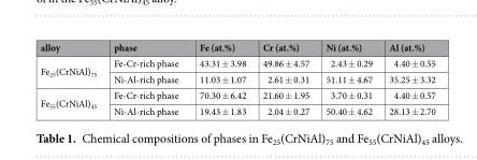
<table><thead><tr><td>alloy</td><td>phase</td><td>Fe (at.%)</td><td>Cr (at.%)</td><td>Ni (at.%)</td><td>Al (at.%)</td></tr></thead><tbody><tr><td rowspan="2">Fe<sub>25</sub>(CrNiAl)<sub>75</sub></td><td>Fe-Cr-rich phase</td><td>43.31 ± 3.98</td><td>49.86 ± 4.57</td><td>2.43 ± 0.29</td><td>4.40 ± 0.55</td></tr><tr><td>Ni-Al-rich phase</td><td>11.03 ± 1.07</td><td>2.61 ± 0.31</td><td>51.11 ± 4.67</td><td>35.25 ± 3.32</td></tr><tr><td rowspan="2">Fe<sub>55</sub>(CrNiAl)<sub>45</sub></td><td>Fe-Cr-rich phase</td><td>70.30 ± 6.42</td><td>21.60 ± 1.95</td><td>3.70 ± 0.31</td><td>4.40 ± 0.57</td></tr><tr><td>Ni-Al-rich phase</td><td>19.43 ± 1.83</td><td>2.04 ± 0.27</td><td>50.40 ± 4.62</td><td>28.13 ± 2.70</td></tr></tbody></table>